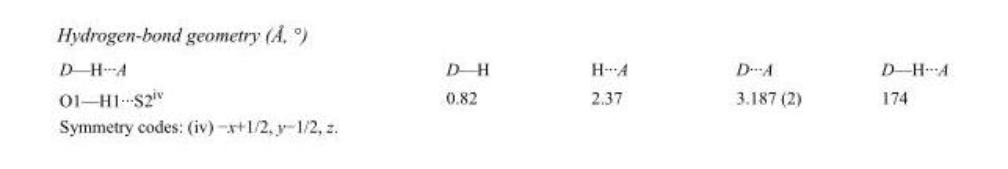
<table><tbody><tr><td>D—H···A</td><td>D—H</td><td>H···A</td><td>D···A</td><td>D—H···A</td></tr><tr><td>O1—H1···S2<sup>iv</sup></td><td>0.82</td><td>2.37</td><td>3.187 (2)</td><td>174</td></tr></tbody></table>